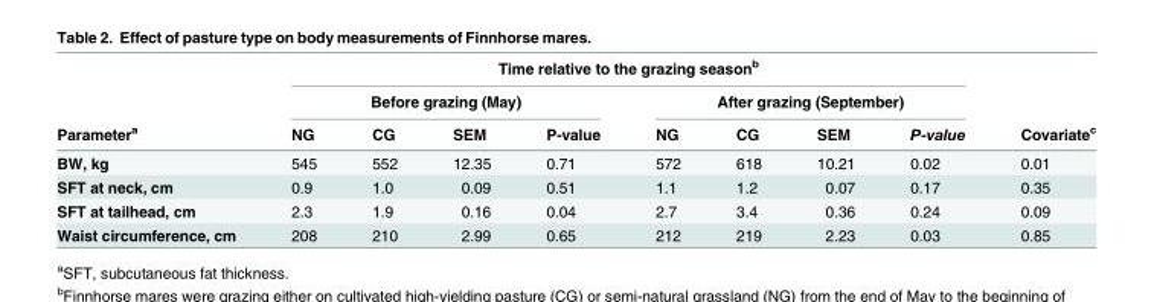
<table><thead><tr><td rowspan="3">Parameter<sup>a</sup></td><td colspan="8">Time relative to the grazing season<sup>b</sup></td><td rowspan="3">Covariate<sup>c</sup></td></tr><tr><td colspan="4">Before grazing (May)</td><td colspan="4">After grazing (September)</td></tr><tr><td>NG</td><td>CG</td><td>SEM</td><td>P-value</td><td>NG</td><td>CG</td><td>SEM</td><td>P-value</td></tr></thead><tbody><tr><td>BW, kg</td><td>545</td><td>552</td><td>12.35</td><td>0.71</td><td>572</td><td>618</td><td>10.21</td><td>0.02</td><td>0.01</td></tr><tr><td>SFT at neck, cm</td><td>0.9</td><td>1.0</td><td>0.09</td><td>0.51</td><td>1.1</td><td>1.2</td><td>0.07</td><td>0.17</td><td>0.35</td></tr><tr><td>SFT at tailhead, cm</td><td>2.3</td><td>1.9</td><td>0.16</td><td>0.04</td><td>2.7</td><td>3.4</td><td>0.36</td><td>0.24</td><td>0.09</td></tr><tr><td>Waist circumference, cm</td><td>208</td><td>210</td><td>2.99</td><td>0.65</td><td>212</td><td>219</td><td>2.23</td><td>0.03</td><td>0.85</td></tr></tbody></table>